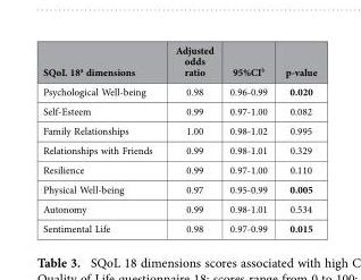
<table><thead><tr><td>SQoL 18<sup>a</sup> dimensions</td><td>Adjusted odds ratio</td><td>95%CI<sup>b</sup></td><td>p-value</td></tr></thead><tbody><tr><td>Psychological Well-being</td><td>0.98</td><td>0.96-0.99</td><td>0.020</td></tr><tr><td>Self-Esteem</td><td>0.99</td><td>0.97-1.00</td><td>0.082</td></tr><tr><td>Family Relationships</td><td>1.00</td><td>0.98-1.02</td><td>0.995</td></tr><tr><td>Relationships with Friends</td><td>0.99</td><td>0.98-1.01</td><td>0.329</td></tr><tr><td>Resilience</td><td>0.99</td><td>0.97-1.00</td><td>0.110</td></tr><tr><td>Physical Well-being</td><td>0.97</td><td>0.95-0.99</td><td>0.005</td></tr><tr><td>Autonomy</td><td>0.99</td><td>0.98-1.01</td><td>0.534</td></tr><tr><td>Sentimental Life</td><td>0.98</td><td>0.97-0.99</td><td>0.015</td></tr></tbody></table>